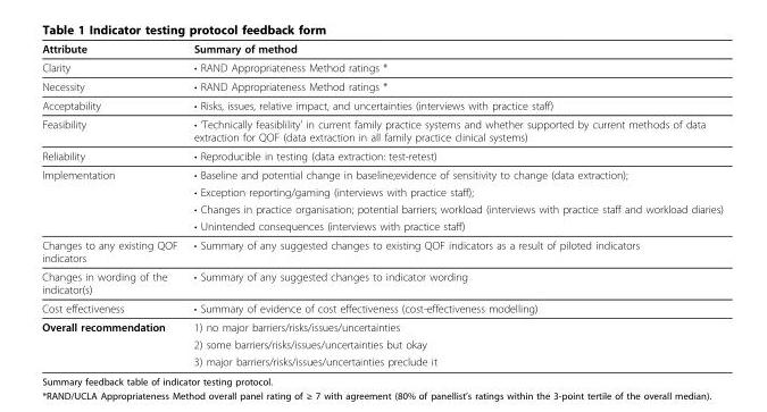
<table><thead><tr><td>Attribute</td><td>Summary of method</td></tr></thead><tbody><tr><td>Clarity</td><td>• RAND Appropriateness Method ratings *</td></tr><tr><td>Necessity</td><td>• RAND Appropriateness Method ratings *</td></tr><tr><td>Acceptability</td><td>• Risks, issues, relative impact, and uncertainties (interviews with practice staff)</td></tr><tr><td>Feasibility</td><td>• ‘Technically feasiblility’ in current family practice systems and whether supported by current methods of data extraction for QOF (data extraction in all family practice clinical systems)</td></tr><tr><td>Reliability</td><td>• Reproducible in testing (data extraction: test-retest)</td></tr><tr><td rowspan="4">Implementation</td><td>• Baseline and potential change in baseline;evidence of sensitivity to change (data extraction);</td></tr><tr><td>• Exception reporting/gaming (interviews with practice staff);</td></tr><tr><td>• Changes in practice organisation; potential barriers; workload (interviews with practice staff and workload diaries)</td></tr><tr><td>• Unintended consequences (interviews with practice staff)</td></tr><tr><td>Changes to any existing QOF indicators</td><td>• Summary of any suggested changes to existing QOF indicators as a result of piloted indicators</td></tr><tr><td>Changes in wording of the indicator(s)</td><td>• Summary of any suggested changes to indicator wording</td></tr><tr><td>Cost effectiveness</td><td>• Summary of evidence of cost effectiveness (cost-effectiveness modelling)</td></tr><tr><td rowspan="3">Overall recommendation</td><td>1) no major barriers/risks/issues/uncertainties</td></tr><tr><td>2) some barriers/risks/issues/uncertainties but okay</td></tr><tr><td>3) major barriers/risks/issues/uncertainties preclude it</td></tr></tbody></table>